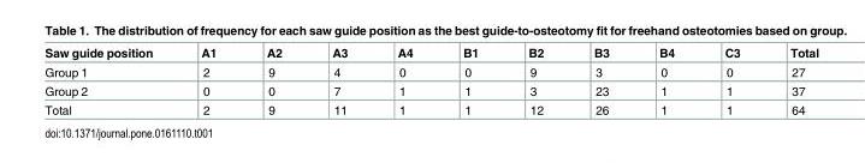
<table><thead><tr><td>Saw guide position</td><td>A1</td><td>A2</td><td>A3</td><td>A4</td><td>B1</td><td>B2</td><td>B3</td><td>B4</td><td>C3</td><td>Total</td></tr></thead><tbody><tr><td>Group 1</td><td>2</td><td>9</td><td>4</td><td>0</td><td>0</td><td>9</td><td>3</td><td>0</td><td>0</td><td>27</td></tr><tr><td>Group 2</td><td>0</td><td>0</td><td>7</td><td>1</td><td>1</td><td>3</td><td>23</td><td>1</td><td>1</td><td>37</td></tr><tr><td>Total</td><td>2</td><td>9</td><td>11</td><td>1</td><td>1</td><td>12</td><td>26</td><td>1</td><td>1</td><td>64</td></tr></tbody></table>